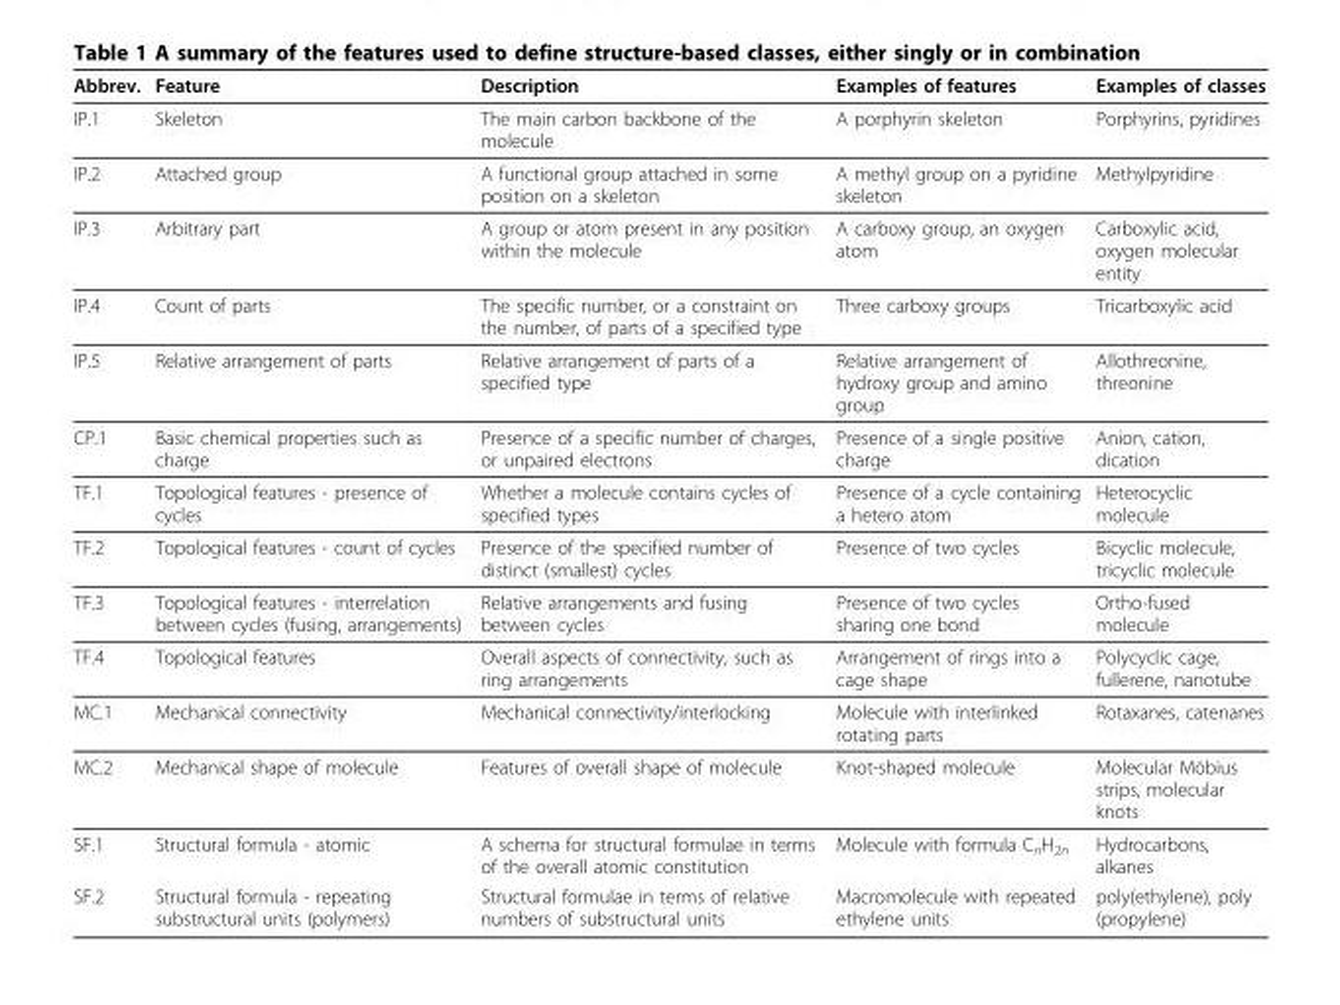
<table><thead><tr><td>Abbrev.</td><td>Feature</td><td>Description</td><td>Examples of features</td><td>Examples of classes</td></tr></thead><tbody><tr><td>IP.1</td><td>Skeleton</td><td>The main carbon backbone of the molecule</td><td>A porphyrin skeleton</td><td>Porphyrins, pyridines</td></tr><tr><td>IP.2</td><td>Attached group</td><td>A functional group attached in some position on a skeleton</td><td>A methyl group on a pyridine skeleton</td><td>Methylpyridine</td></tr><tr><td>IP.3</td><td>Arbitrary part</td><td>A group or atom present in any position within the molecule</td><td>A carboxy group, an oxygen atom</td><td>Carboxylic acid, oxygen molecular entity</td></tr><tr><td>IP.4</td><td>Count of parts</td><td>The specific number, or a constraint on the number, of parts of a specified type</td><td>Three carboxy groups</td><td>Tricarboxylic acid</td></tr><tr><td>IP.5</td><td>Relative arrangement of parts</td><td>Relative arrangement of parts of a specified type</td><td>Relative arrangement of hydroxy group and amino group</td><td>Allothreonine, threonine</td></tr><tr><td>CP.1</td><td>Basic chemical properties such as charge</td><td>Presence of a specific number of charges, or unpaired electrons</td><td>Presence of a single positive charge</td><td>Anion, cation, dication</td></tr><tr><td>TF.1</td><td>Topological features - presence of cycles</td><td>Whether a molecule contains cycles of specified types</td><td>Presence of a cycle containing a hetero atom</td><td>Heterocyclic molecule</td></tr><tr><td>TF.2</td><td>Topological features - count of cycles</td><td>Presence of the specified number of distinct (smallest) cycles</td><td>Presence of two cycles</td><td>Bicyclic molecule, tricyclic molecule</td></tr><tr><td>TF.3</td><td>Topological features - interrelation between cycles (fusing, arrangements)</td><td>Relative arrangements and fusing between cycles</td><td>Presence of two cycles sharing one bond</td><td>Ortho-fused molecule</td></tr><tr><td>TF.4</td><td>Topological features</td><td>Overall aspects of connectivity, such as ring arrangements</td><td>Arrangement of rings into a cage shape</td><td>Polycyclic cage, fullerene, nanotube</td></tr><tr><td>MC.1</td><td>Mechanical connectivity</td><td>Mechanical connectivity/interlocking</td><td>Molecule with interlinked rotating parts</td><td>Rotaxanes, catenanes</td></tr><tr><td>MC.2</td><td>Mechanical shape of molecule</td><td>Features of overall shape of molecule</td><td>Knot-shaped molecule</td><td>Molecular Möbius strips, molecular knots</td></tr><tr><td>SF.1</td><td>Structural formula - atomic</td><td>A schema for structural formulae in terms of the overall atomic constitution</td><td>Molecule with formula C<sub>n</sub>H<sub>2n</sub></td><td>Hydrocarbons, alkanes</td></tr><tr><td>SF.2</td><td>Structural formula - repeating substructural units (polymers)</td><td>Structural formulae in terms of relative numbers of substructural units</td><td>Macromolecule with repeated ethylene units</td><td>poly(ethylene), poly (propylene)</td></tr></tbody></table>